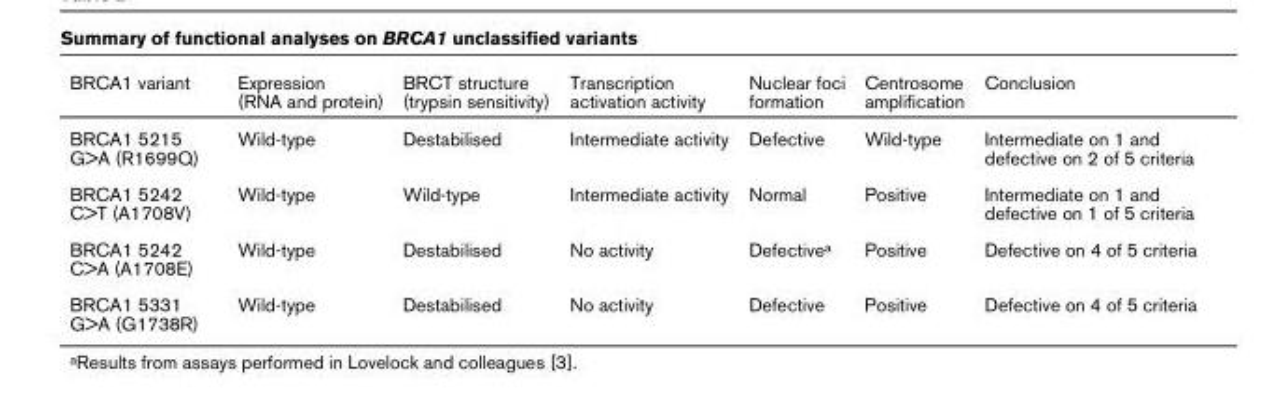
<table><thead><tr><td>BRCA1 variant</td><td>Expression (RNA and protein)</td><td>BRCT structure (trypsin sensitivity)</td><td>Transcription activation activity</td><td>Nuclear foci formation</td><td>Centrosome amplification</td><td>Conclusion</td></tr></thead><tbody><tr><td>BRCA1 5215 G&gt;A (R1699Q)</td><td>Wild-type</td><td>Destabilised</td><td>Intermediate activity</td><td>Defective</td><td>Wild-type</td><td>Intermediate on 1 and defective on 2 of 5 criteria</td></tr><tr><td>BRCA1 5242 C&gt;T (A1708V)</td><td>Wild-type</td><td>Wild-type</td><td>Intermediate activity</td><td>Normal</td><td>Positive</td><td>Intermediate on 1 and defective on 1 of 5 criteria</td></tr><tr><td>BRCA1 5242 C&gt;A (A1708E)</td><td>Wild-type</td><td>Destabilised</td><td>No activity</td><td>Defective<sup>a</sup></td><td>Positive</td><td>Defective on 4 of 5 criteria</td></tr><tr><td>BRCA1 5331 G&gt;A (G1738R)</td><td>Wild-type</td><td>Destabilised</td><td>No activity</td><td>Defective</td><td>Positive</td><td>Defective on 4 of 5 criteria</td></tr></tbody></table>